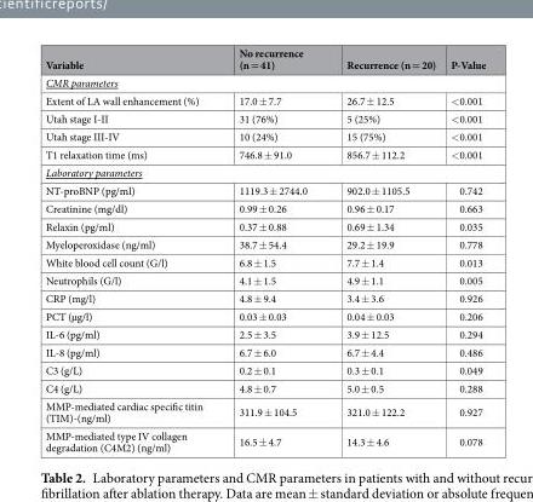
<table><thead><tr><td>Variable</td><td>No recurrence (n = 41)</td><td>Recurrence (n = 20)</td><td>P-Value</td></tr></thead><tbody><tr><td colspan="4">CMR parameters</td></tr><tr><td>Extent of LA wall enhancement (%)</td><td>17.0 ± 7.7</td><td>26.7 ± 12.5</td><td>&lt;0.001</td></tr><tr><td>Utah stage I-II</td><td>31 (76%)</td><td>5 (25%)</td><td>&lt;0.001</td></tr><tr><td>Utah stage III-IV</td><td>10 (24%)</td><td>15 (75%)</td><td>&lt;0.001</td></tr><tr><td>T1 relaxation time (ms)</td><td>746.8 ± 91.0</td><td>856.7 ± 112.2</td><td>&lt;0.001</td></tr><tr><td colspan="4">Laboratory parameters</td></tr><tr><td>NT-proBNP (pg/ml)</td><td>1119.3 ± 2744.0</td><td>902.0 ± 1105.5</td><td>0.742</td></tr><tr><td>Creatinine (mg/dl)</td><td>0.99 ± 0.26</td><td>0.96 ± 0.17</td><td>0.663</td></tr><tr><td>Relaxin (pg/ml)</td><td>0.37 ± 0.88</td><td>0.69 ± 1.34</td><td>0.035</td></tr><tr><td>Myeloperoxidase (ng/ml)</td><td>38.7 ± 54.4</td><td>29.2 ± 19.9</td><td>0.778</td></tr><tr><td>White blood cell count (G/l)</td><td>6.8 ± 1.5</td><td>7.7 ± 1.4</td><td>0.013</td></tr><tr><td>Neutrophils (G/l)</td><td>4.1 ± 1.5</td><td>4.9 ± 1.1</td><td>0.005</td></tr><tr><td>CRP (mg/l)</td><td>4.8 ± 9.4</td><td>3.4 ± 3.6</td><td>0.926</td></tr><tr><td>PCT (µg/l)</td><td>0.03 ± 0.03</td><td>0.04 ± 0.03</td><td>0.206</td></tr><tr><td>IL-6 (pg/ml)</td><td>2.5 ± 3.5</td><td>3.9 ± 12.5</td><td>0.294</td></tr><tr><td>IL-8 (pg/ml)</td><td>6.7 ± 6.0</td><td>6.7 ± 4.4</td><td>0.486</td></tr><tr><td>C3 (g/L)</td><td>0.2 ± 0.1</td><td>0.3 ± 0.1</td><td>0.049</td></tr><tr><td>C4 (g/L)</td><td>4.8 ± 0.7</td><td>5.0 ± 0.5</td><td>0.288</td></tr><tr><td>MMP-mediated cardiac specific titin (TIM)-(ng/ml)</td><td>311.9 ± 104.5</td><td>321.0 ± 122.2</td><td>0.927</td></tr><tr><td>MMP-mediated type IV collagen degradation (C4M2) (ng/ml)</td><td>16.5 ± 4.7</td><td>14.3 ± 4.6</td><td>0.078</td></tr></tbody></table>